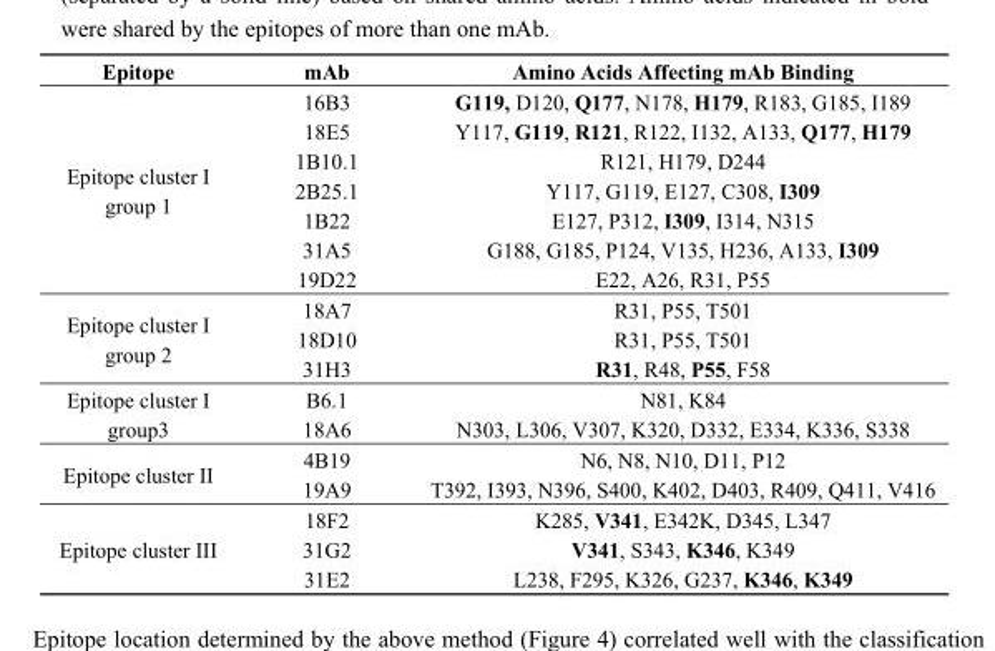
<table><thead><tr><td>Epitope</td><td>mAb</td><td>Amino Acids Affecting mAb Binding</td></tr></thead><tbody><tr><td rowspan="7">Epitope cluster I group 1</td><td>16B3</td><td>G119, D120, Q177, N178, H179, R183, G185, I189</td></tr><tr><td>18E5</td><td>Y117, G119, R121, R122, I132, A133, Q177, H179</td></tr><tr><td>1B10.1</td><td>R121, H179, D244</td></tr><tr><td>2B25.1</td><td>Y117, G119, E127, C308, I309</td></tr><tr><td>1B22</td><td>E127, P312, I309, I314, N315</td></tr><tr><td>31A5</td><td>G188, G185, P124, V135, H236, A133, I309</td></tr><tr><td>19D22</td><td>E22, A26, R31, P55</td></tr><tr><td rowspan="3">Epitope cluster I group 2</td><td>18A7</td><td>R31, P55, T501</td></tr><tr><td>18D10</td><td>R31, P55, T501</td></tr><tr><td>31H3</td><td>R31, R48, P55, F58</td></tr><tr><td rowspan="2">Epitope cluster I group3</td><td>B6.1</td><td>N81, K84</td></tr><tr><td>18A6</td><td>N303, L306, V307, K320, D332, E334, K336, S338</td></tr><tr><td rowspan="2">Epitope cluster II</td><td>4B19</td><td>N6, N8, N10, D11, P12</td></tr><tr><td>19A9</td><td>T392, I393, N396, S400, K402, D403, R409, Q411, V416</td></tr><tr><td rowspan="3">Epitope cluster III</td><td>18F2</td><td>K285, V341, E342K, D345, L347</td></tr><tr><td>31G2</td><td>V341, S343, K346, K349</td></tr><tr><td>31E2</td><td>L238, F295, K326, G237, K346, K349</td></tr></tbody></table>